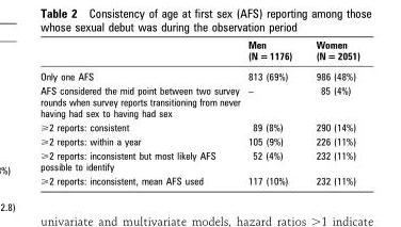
<table><thead><tr><td></td><td>Men (N = 1176)</td><td>Women (N = 2051)</td></tr></thead><tbody><tr><td>Only one AFS</td><td>813 (69%)</td><td>986 (48%)</td></tr><tr><td>AFS considered the mid point between two survey rounds when survey reports transitioning from never having had sex to having had sex</td><td>–</td><td>85 (4%)</td></tr><tr><td>&gt;2 reports: consistent</td><td>89 (8%)</td><td>290 (14%)</td></tr><tr><td>&gt;2 reports: within a year</td><td>105 (9%)</td><td>226 (11%)</td></tr><tr><td>&gt;2 reports: inconsistent but most likely AFS possible to identify</td><td>52 (4%)</td><td>232 (11%)</td></tr><tr><td>&gt;2 reports: inconsistent, mean AFS used</td><td>117 (10%)</td><td>232 (11%)</td></tr></tbody></table>